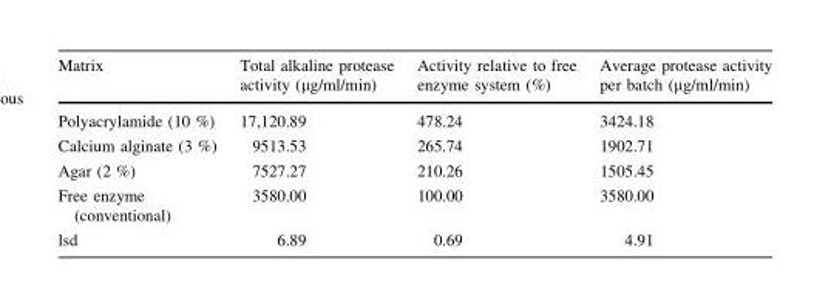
<table><thead><tr><td>Matrix</td><td>Total alkaline protease activity (µg/ml/min)</td><td>Activity relative to free enzyme system (%)</td><td>Average protease activity per batch (µg/ml/min)</td></tr></thead><tbody><tr><td>Polyacrylamide (10 %)</td><td>17,120.89</td><td>478.24</td><td>3424.18</td></tr><tr><td>Calcium alginate (3 %)</td><td>9513.53</td><td>265.74</td><td>1902.71</td></tr><tr><td>Agar (2 %)</td><td>7527.27</td><td>210.26</td><td>1505.45</td></tr><tr><td>Free enzyme (conventional)</td><td>3580.00</td><td>100.00</td><td>3580.00</td></tr><tr><td>lsd</td><td>6.89</td><td>0.69</td><td>4.91</td></tr></tbody></table>